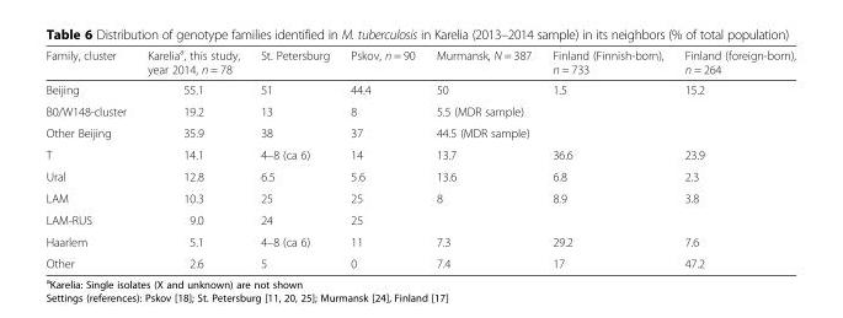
<table><thead><tr><td>Family, cluster</td><td>Karelia<sup>a</sup>, this study, year 2014, n = 78</td><td>St. Petersburg</td><td>Pskov, n = 90</td><td>Murmansk, N = 387</td><td>Finland (Finnish-born), n = 733</td><td>Finland (foreign-born), n = 264</td></tr></thead><tbody><tr><td>Beijing</td><td>55.1</td><td>51</td><td>44.4</td><td>50</td><td>1.5</td><td>15.2</td></tr><tr><td>B0/W148-cluster</td><td>19.2</td><td>13</td><td>8</td><td>5.5 (MDR sample)</td><td></td><td></td></tr><tr><td>Other Beijing</td><td>35.9</td><td>38</td><td>37</td><td>44.5 (MDR sample)</td><td></td><td></td></tr><tr><td>T</td><td>14.1</td><td>4–8 (ca 6)</td><td>14</td><td>13.7</td><td>36.6</td><td>23.9</td></tr><tr><td>Ural</td><td>12.8</td><td>6.5</td><td>5.6</td><td>13.6</td><td>6.8</td><td>2.3</td></tr><tr><td>LAM</td><td>10.3</td><td>25</td><td>25</td><td>8</td><td>8.9</td><td>3.8</td></tr><tr><td>LAM-RUS</td><td>9.0</td><td>24</td><td>25</td><td></td><td></td><td></td></tr><tr><td>Haarlem</td><td>5.1</td><td>4–8 (ca 6)</td><td>11</td><td>7.3</td><td>29.2</td><td>7.6</td></tr><tr><td>Other</td><td>2.6</td><td>5</td><td>0</td><td>7.4</td><td>17</td><td>47.2</td></tr></tbody></table>